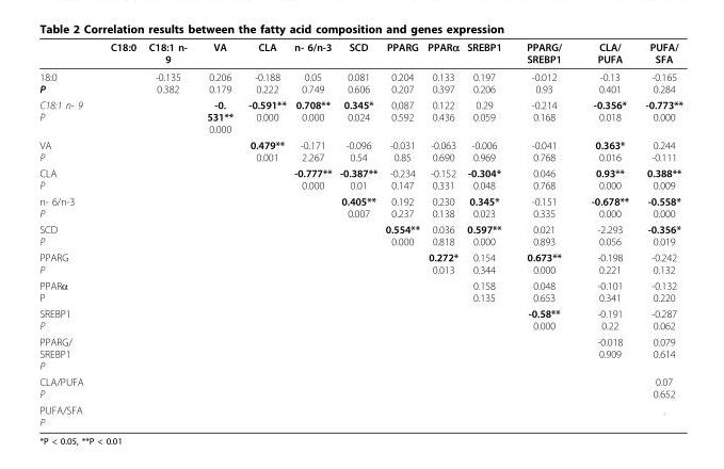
<table><thead><tr><td></td><td>C18:0</td><td>C18:1 n- 9</td><td>VA</td><td>CLA</td><td>n- 6/n-3</td><td>SCD</td><td>PPARG</td><td>PPARα</td><td>SREBP1</td><td>PPARG/ SREBP1</td><td>CLA/ PUFA</td><td>PUFA/ SFA</td></tr></thead><tbody><tr><td>18:0 P</td><td></td><td>-0.135 0.382</td><td>0.206 0.179</td><td>-0.188 0.222</td><td>0.05 0.749</td><td>0.081 0.606</td><td>0.204 0.207</td><td>0.133 0.397</td><td>0.197 0.206</td><td>-0.012 0.93</td><td>-0.13 0.401</td><td>-0.165 0.284</td></tr><tr><td>C18:1 n- 9 P</td><td></td><td></td><td>-0. 531** 0.000</td><td>-0.591** 0.000</td><td>0.708** 0.000</td><td>0.345* 0.024</td><td>0,087 0.592</td><td>0.122 0.436</td><td>0.29 0.059</td><td>-0.214 0.168</td><td>-0.356* 0.018</td><td>-0.773** 0.000</td></tr><tr><td>VA P</td><td></td><td></td><td></td><td>0.479** 0.001</td><td>-0.171 2.267</td><td>-0.096 0.54</td><td>-0.031 0.85</td><td>-0.063 0.690</td><td>-0.006 0.969</td><td>-0.041 0.768</td><td>0.363* 0.016</td><td>0.244 -0.111</td></tr><tr><td>CLA P</td><td></td><td></td><td></td><td></td><td>-0.777** 0.000</td><td>-0.387** 0.01</td><td>-0.234 0.147</td><td>-0.152 0.331</td><td>-0.304* 0.048</td><td>0.046 0.768</td><td>0.93** 0.000</td><td>0.388** 0.009</td></tr><tr><td>n- 6/n-3 P</td><td></td><td></td><td></td><td></td><td></td><td>0.405** 0.007</td><td>0.192 0.237</td><td>0.230 0.138</td><td>0.345* 0.023</td><td>-0.151 0.335</td><td>-0.678** 0.000</td><td>-0.558* 0.000</td></tr><tr><td>SCD P</td><td></td><td></td><td></td><td></td><td></td><td></td><td>0.554** 0.000</td><td>0.036 0.818</td><td>0.597** 0.000</td><td>0.021 0.893</td><td>-2.293 0.056</td><td>-0.356* 0.019</td></tr><tr><td>PPARG P</td><td></td><td></td><td></td><td></td><td></td><td></td><td></td><td>0.272* 0.013</td><td>0.154 0.344</td><td>0.673** 0.000</td><td>-0.198 0.221</td><td>-0.242 0.132</td></tr><tr><td>PPARα P</td><td></td><td></td><td></td><td></td><td></td><td></td><td></td><td></td><td>0.158 0.135</td><td>0.048 0.653</td><td>-0.101 0.341</td><td>-0.132 0.220</td></tr><tr><td>SREBP1 P</td><td></td><td></td><td></td><td></td><td></td><td></td><td></td><td></td><td></td><td>-0.58** 0.000</td><td>-0.191 0.22</td><td>-0.287 0.062</td></tr><tr><td>PPARG/ SREBP1 P</td><td></td><td></td><td></td><td></td><td></td><td></td><td></td><td></td><td></td><td></td><td>-0.018 0.909</td><td>0.079 0.614</td></tr><tr><td>CLA/PUFA P</td><td></td><td></td><td></td><td></td><td></td><td></td><td></td><td></td><td></td><td></td><td></td><td>0.07 0.652</td></tr><tr><td>PUFA/SFA P</td><td></td><td></td><td></td><td></td><td></td><td></td><td></td><td></td><td></td><td></td><td></td><td>.</td></tr></tbody></table>